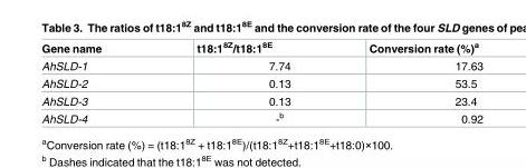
<table><thead><tr><td>Gene name</td><td>t18:1<sup>8Z</sup>/t18:1<sup>8E</sup></td><td>Conversion rate (%)<sup>a</sup></td></tr></thead><tbody><tr><td>AhSLD-1</td><td>7.74</td><td>17.63</td></tr><tr><td>AhSLD-2</td><td>0.13</td><td>53.5</td></tr><tr><td>AhSLD-3</td><td>0.13</td><td>23.4</td></tr><tr><td>AhSLD-4</td><td>-<sup>b</sup></td><td>0.92</td></tr></tbody></table>